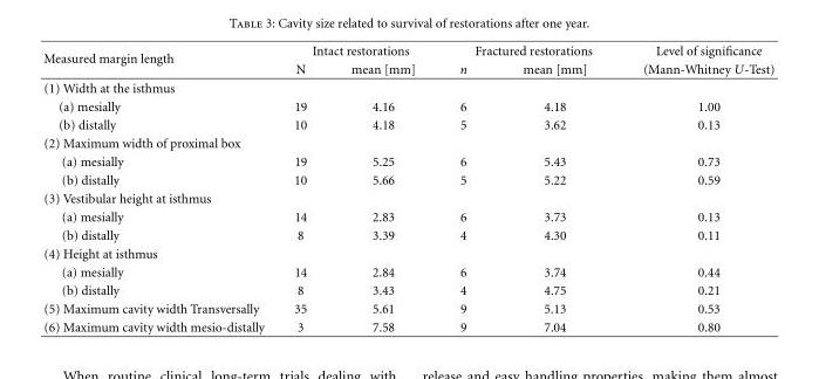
<table><thead><tr><td rowspan="2">Measured margin length</td><td colspan="2">Intact restorations</td><td colspan="2">Fractured restorations</td><td rowspan="2">Level of significance (Mann-Whitney U-Test)</td></tr><tr><td>N</td><td>mean [mm]</td><td>n</td><td>mean [mm]</td></tr></thead><tbody><tr><td colspan="6">(1) Width at the isthmus</td></tr><tr><td>(a) mesially</td><td>19</td><td>4.16</td><td>6</td><td>4.18</td><td>1.00</td></tr><tr><td>(b) distally</td><td>10</td><td>4.18</td><td>5</td><td>3.62</td><td>0.13</td></tr><tr><td colspan="6">(2) Maximum width of proximal box</td></tr><tr><td>(a) mesially</td><td>19</td><td>5.25</td><td>6</td><td>5.43</td><td>0.73</td></tr><tr><td>(b) distally</td><td>10</td><td>5.66</td><td>5</td><td>5.22</td><td>0.59</td></tr><tr><td colspan="6">(3) Vestibular height at isthmus</td></tr><tr><td>(a) mesially</td><td>14</td><td>2.83</td><td>6</td><td>3.73</td><td>0.13</td></tr><tr><td>(b) distally</td><td>8</td><td>3.39</td><td>4</td><td>4.30</td><td>0.11</td></tr><tr><td colspan="6">(4) Height at isthmus</td></tr><tr><td>(a) mesially</td><td>14</td><td>2.84</td><td>6</td><td>3.74</td><td>0.44</td></tr><tr><td>(b) distally</td><td>8</td><td>3.43</td><td>4</td><td>4.75</td><td>0.21</td></tr><tr><td>(5) Maximum cavity width Transversally</td><td>35</td><td>5.61</td><td>9</td><td>5.13</td><td>0.53</td></tr><tr><td>(6) Maximum cavity width mesio-distally</td><td>3</td><td>7.58</td><td>9</td><td>7.04</td><td>0.80</td></tr></tbody></table>